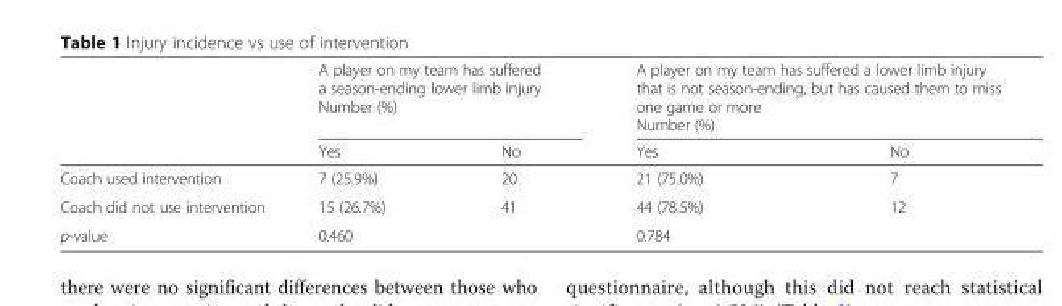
<table><thead><tr><td rowspan="2"></td><td colspan="2">A player on my team has suffered a season-ending lower limb injury Number (%)</td><td colspan="2">A player on my team has suffered a lower limb injury that is not season-ending, but has caused them to miss one game or more Number (%)</td></tr><tr><td>Yes</td><td>No</td><td>Yes</td><td>No</td></tr></thead><tbody><tr><td>Coach used intervention</td><td>7 (25.9%)</td><td>20</td><td>21 (75.0%)</td><td>7</td></tr><tr><td>Coach did not use intervention</td><td>15 (26.7%)</td><td>41</td><td>44 (78.5%)</td><td>12</td></tr><tr><td>p-value</td><td colspan="2">0.460</td><td colspan="2">0.784</td></tr></tbody></table>